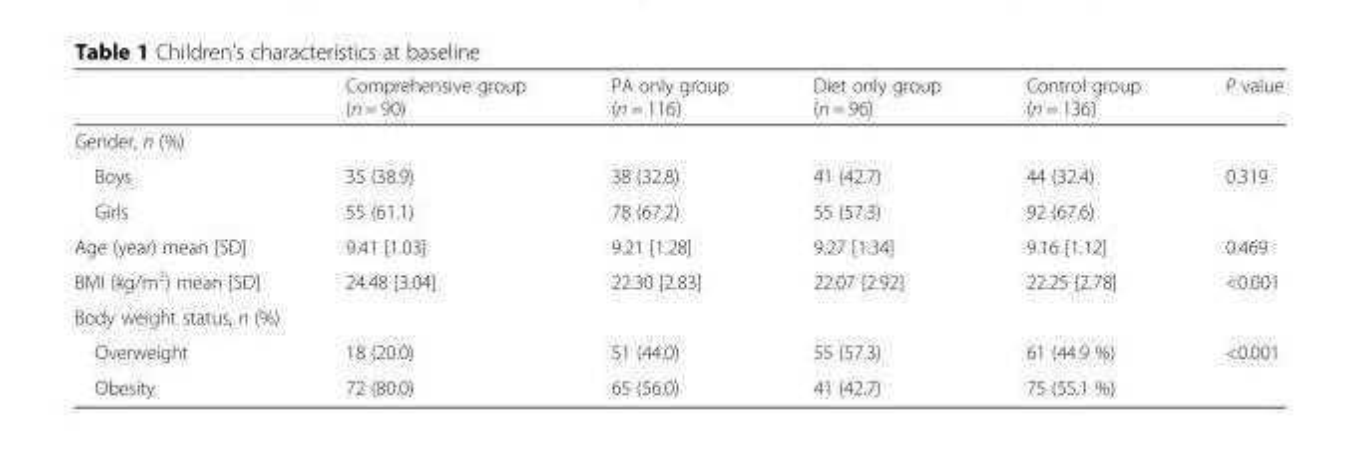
<table><thead><tr><td></td><td>Comprehensive group (n = 90)</td><td>PA only group (n = 116)</td><td>Diet only group (n = 96)</td><td>Control group (n = 136)</td><td>P value</td></tr></thead><tbody><tr><td colspan="6">Gender, n (%)</td></tr><tr><td>Boys</td><td>35 (38.9)</td><td>38 (32.8)</td><td>41 (42.7)</td><td>44 (32.4)</td><td rowspan="2">0.319</td></tr><tr><td>Girls</td><td>55 (61.1)</td><td>78 (67.2)</td><td>55 (57.3)</td><td>92 (67.6)</td></tr><tr><td>Age (year) mean [SD]</td><td>9.41 [1.03]</td><td>9.21 [1.28]</td><td>9.27 [1.34]</td><td>9.16 [1.12]</td><td>0.469</td></tr><tr><td>BMI (kg/m<sup>2</sup>) mean [SD]</td><td>24.48 [3.04]</td><td>22.30 [2.83]</td><td>22.07 [2.92]</td><td>22.25 [2.78]</td><td>&lt;0.001</td></tr><tr><td colspan="6">Body weight status, n (%)</td></tr><tr><td>Overweight</td><td>18 (20.0)</td><td>51 (44.0)</td><td>55 (57.3)</td><td>61 (44.9 %)</td><td rowspan="2">&lt;0.001</td></tr><tr><td>Obesity</td><td>72 (80.0)</td><td>65 (56.0)</td><td>41 (42.7)</td><td>75 (55.1 %)</td></tr></tbody></table>